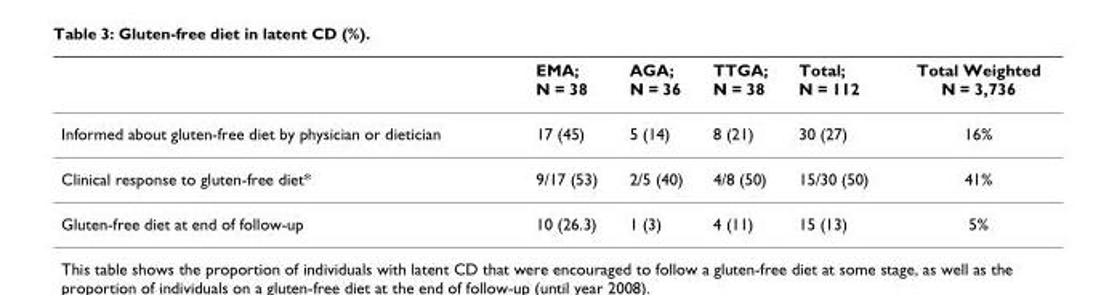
<table><thead><tr><td></td><td>EMA; N = 38</td><td>AGA; N = 36</td><td>TTGA; N = 38</td><td>Total; N = 112</td><td>Total Weighted N = 3,736</td></tr></thead><tbody><tr><td>Informed about gluten-free diet by physician or dietician</td><td>17 (45)</td><td>5 (14)</td><td>8 (21)</td><td>30 (27)</td><td>16%</td></tr><tr><td>Clinical response to gluten-free diet*</td><td>9/17 (53)</td><td>2/5 (40)</td><td>4/8 (50)</td><td>15/30 (50)</td><td>41%</td></tr><tr><td>Gluten-free diet at end of follow-up</td><td>10 (26.3)</td><td>1 (3)</td><td>4 (11)</td><td>15 (13)</td><td>5%</td></tr></tbody></table>